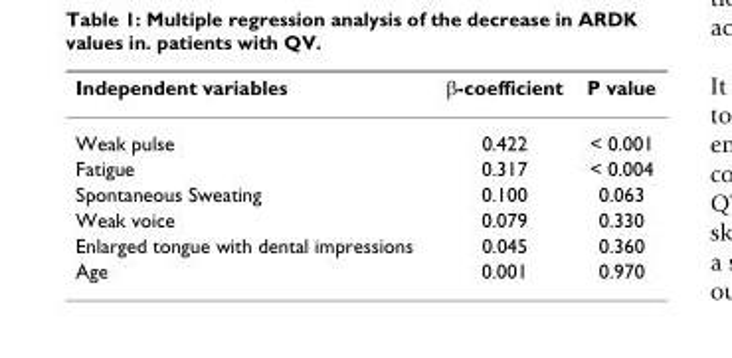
<table><thead><tr><td>Independent variables</td><td>β-coefficient</td><td>P value</td></tr></thead><tbody><tr><td>Weak pulse</td><td>0.422</td><td>&lt; 0.001</td></tr><tr><td>Fatigue</td><td>0.317</td><td>&lt; 0.004</td></tr><tr><td>Spontaneous Sweating</td><td>0.100</td><td>0.063</td></tr><tr><td>Weak voice</td><td>0.079</td><td>0.330</td></tr><tr><td>Enlarged tongue with dental impressions</td><td>0.045</td><td>0.360</td></tr><tr><td>Age</td><td>0.001</td><td>0.970</td></tr></tbody></table>